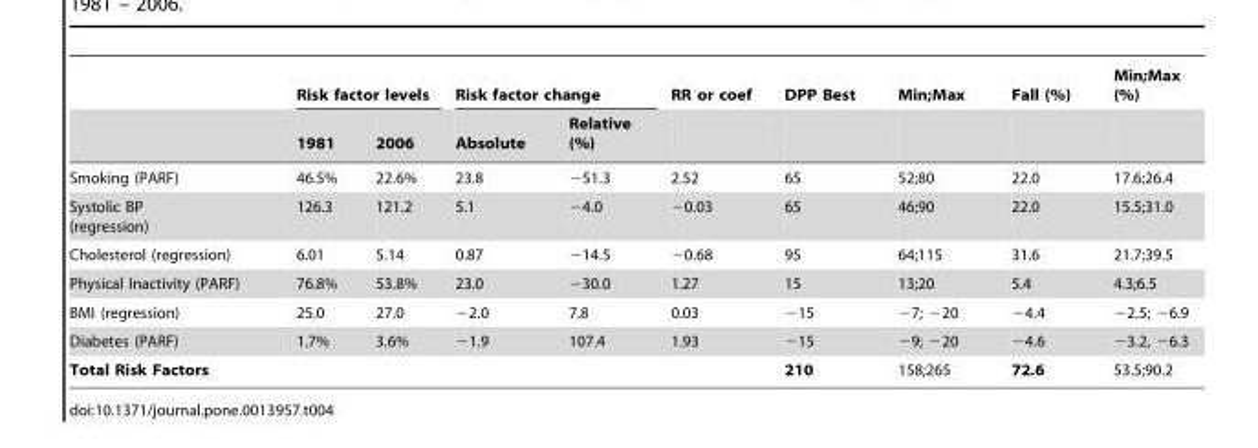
<table><thead><tr><td rowspan="2"></td><td colspan="2">Risk factor levels</td><td colspan="2">Risk factor change</td><td rowspan="2">RR or coef</td><td rowspan="2">DPP Best</td><td rowspan="2">Min;Max</td><td rowspan="2">Fall (%)</td><td rowspan="2">Min;Max (%)</td></tr><tr><td>1981</td><td>2006</td><td>Absolute</td><td>Relative (%)</td></tr></thead><tbody><tr><td>Smoking (PARF)</td><td>46.5%</td><td>22.6%</td><td>23.8</td><td>−51.3</td><td>2.52</td><td>65</td><td>52;80</td><td>22.0</td><td>17.6;26.4</td></tr><tr><td>Systolic BP (regression)</td><td>126.3</td><td>121.2</td><td>5.1</td><td>−4.0</td><td>−0.03</td><td>65</td><td>46;90</td><td>22.0</td><td>15.5;31.0</td></tr><tr><td>Cholesterol (regression)</td><td>6.01</td><td>5.14</td><td>0.87</td><td>−14.5</td><td>−0.68</td><td>95</td><td>64;115</td><td>31.6</td><td>21.7;39.5</td></tr><tr><td>Physical Inactivity (PARF)</td><td>76.8%</td><td>53.8%</td><td>23.0</td><td>−30.0</td><td>1.27</td><td>15</td><td>13;20</td><td>5.4</td><td>4.3;6.5</td></tr><tr><td>BMI (regression)</td><td>25.0</td><td>27.0</td><td>−2.0</td><td>7.8</td><td>0.03</td><td>−15</td><td>−7; −20</td><td>−4.4</td><td>−2.5; −6.9</td></tr><tr><td>Diabetes (PARF)</td><td>1.7%</td><td>3.6%</td><td>−1.9</td><td>107.4</td><td>1.93</td><td>−15</td><td>−9; −20</td><td>−4.6</td><td>−3.2, −6.3</td></tr><tr><td>Total Risk Factors</td><td></td><td></td><td></td><td></td><td></td><td>210</td><td>158;265</td><td>72.6</td><td>53.5;90.2</td></tr></tbody></table>